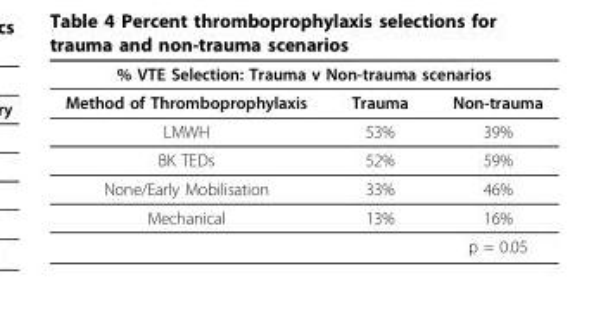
<table><thead><tr><td colspan="3">% VTE Selection: Trauma v Non-trauma scenarios</td></tr><tr><td>Method of Thromboprophylaxis</td><td>Trauma</td><td>Non-trauma</td></tr></thead><tbody><tr><td>LMWH</td><td>53%</td><td>39%</td></tr><tr><td>BK TEDs</td><td>52%</td><td>59%</td></tr><tr><td>None/Early Mobilisation</td><td>33%</td><td>46%</td></tr><tr><td rowspan="2">Mechanical</td><td>13%</td><td>16%</td></tr><tr><td></td><td>p = 0.05</td></tr></tbody></table>